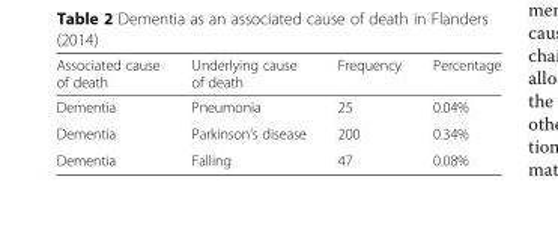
<table><thead><tr><td>Associated cause of death</td><td>Underlying cause of death</td><td>Frequency</td><td>Percentage</td></tr></thead><tbody><tr><td>Dementia</td><td>Pneumonia</td><td>25</td><td>0.04%</td></tr><tr><td>Dementia</td><td>Parkinson’s disease</td><td>200</td><td>0.34%</td></tr><tr><td>Dementia</td><td>Falling</td><td>47</td><td>0.08%</td></tr></tbody></table>